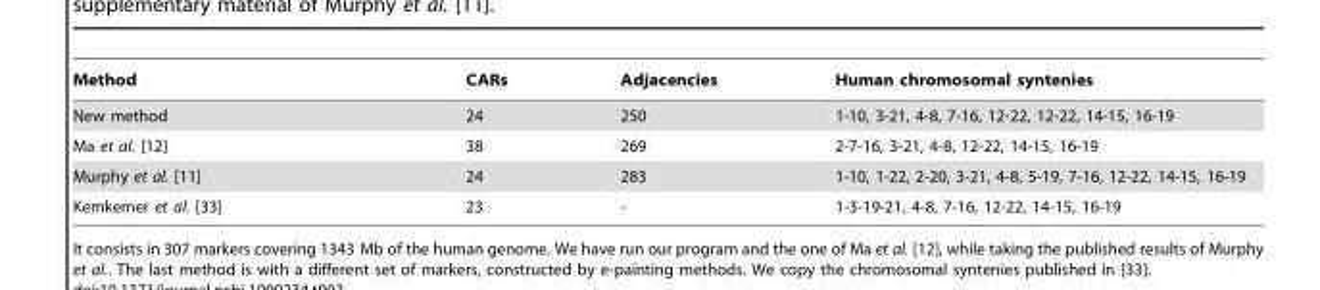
<table><thead><tr><td>Method</td><td>CARs</td><td>Adjacencies</td><td>Human chromosomal syntenies</td></tr></thead><tbody><tr><td>New method</td><td>24</td><td>250</td><td>1-10, 3-21, 4-8, 7-16, 12-22, 12-22, 14-15, 16-19</td></tr><tr><td>Ma et al. [12]</td><td>38</td><td>269</td><td>2-7-16, 3-21, 4-8, 12-22, 14-15, 16-19</td></tr><tr><td>Murphy et al. [11]</td><td>24</td><td>283</td><td>1-10, 1-22, 2-20, 3-21, 4-8, 5-19, 7-16, 12-22, 14-15, 16-19</td></tr><tr><td>Kemkemer et al. [33]</td><td>23</td><td>-</td><td>1-3-19-21, 4-8, 7-16, 12-22, 14-15, 16-19</td></tr></tbody></table>